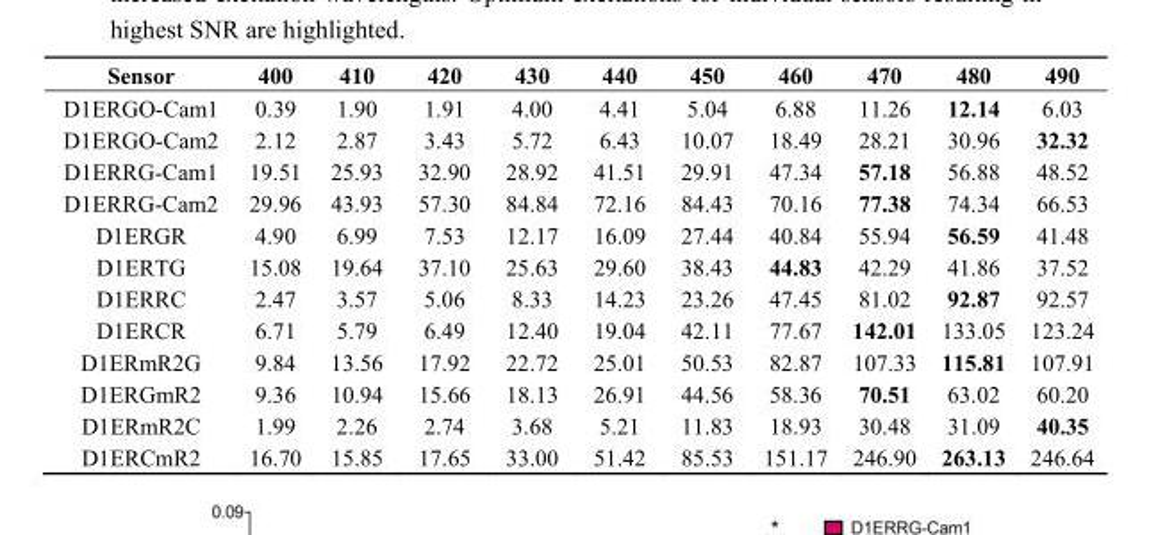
<table><thead><tr><td>Sensor</td><td>400</td><td>410</td><td>420</td><td>430</td><td>440</td><td>450</td><td>460</td><td>470</td><td>480</td><td>490</td></tr></thead><tbody><tr><td>D1ERGO-Cam1</td><td>0.39</td><td>1.90</td><td>1.91</td><td>4.00</td><td>4.41</td><td>5.04</td><td>6.88</td><td>11.26</td><td>12.14</td><td>6.03</td></tr><tr><td>D1ERGO-Cam2</td><td>2.12</td><td>2.87</td><td>3.43</td><td>5.72</td><td>6.43</td><td>10.07</td><td>18.49</td><td>28.21</td><td>30.96</td><td>32.32</td></tr><tr><td>D1ERRG-Cam1</td><td>19.51</td><td>25.93</td><td>32.90</td><td>28.92</td><td>41.51</td><td>29.91</td><td>47.34</td><td>57.18</td><td>56.88</td><td>48.52</td></tr><tr><td>D1ERRG-Cam2</td><td>29.96</td><td>43.93</td><td>57.30</td><td>84.84</td><td>72.16</td><td>84.43</td><td>70.16</td><td>77.38</td><td>74.34</td><td>66.53</td></tr><tr><td>D1ERGR</td><td>4.90</td><td>6.99</td><td>7.53</td><td>12.17</td><td>16.09</td><td>27.44</td><td>40.84</td><td>55.94</td><td>56.59</td><td>41.48</td></tr><tr><td>D1ERTG</td><td>15.08</td><td>19.64</td><td>37.10</td><td>25.63</td><td>29.60</td><td>38.43</td><td>44.83</td><td>42.29</td><td>41.86</td><td>37.52</td></tr><tr><td>D1ERRC</td><td>2.47</td><td>3.57</td><td>5.06</td><td>8.33</td><td>14.23</td><td>23.26</td><td>47.45</td><td>81.02</td><td>92.87</td><td>92.57</td></tr><tr><td>D1ERCR</td><td>6.71</td><td>5.79</td><td>6.49</td><td>12.40</td><td>19.04</td><td>42.11</td><td>77.67</td><td>142.01</td><td>133.05</td><td>123.24</td></tr><tr><td>D1ERmR2G</td><td>9.84</td><td>13.56</td><td>17.92</td><td>22.72</td><td>25.01</td><td>50.53</td><td>82.87</td><td>107.33</td><td>115.81</td><td>107.91</td></tr><tr><td>D1ERGmR2</td><td>9.36</td><td>10.94</td><td>15.66</td><td>18.13</td><td>26.91</td><td>44.56</td><td>58.36</td><td>70.51</td><td>63.02</td><td>60.20</td></tr><tr><td>D1ERmR2C</td><td>1.99</td><td>2.26</td><td>2.74</td><td>3.68</td><td>5.21</td><td>11.83</td><td>18.93</td><td>30.48</td><td>31.09</td><td>40.35</td></tr><tr><td>D1ERCmR2</td><td>16.70</td><td>15.85</td><td>17.65</td><td>33.00</td><td>51.42</td><td>85.53</td><td>151.17</td><td>246.90</td><td>263.13</td><td>246.64</td></tr></tbody></table>